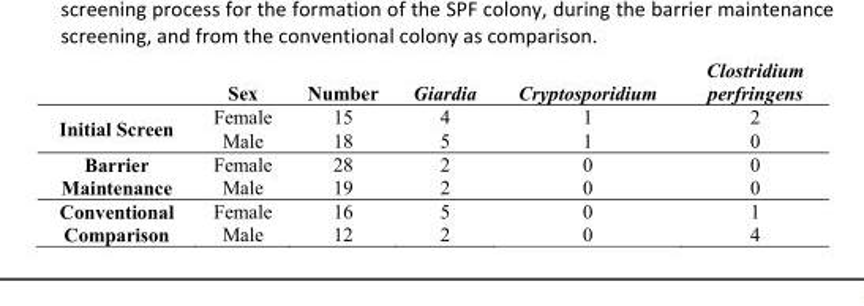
<table><thead><tr><td></td><td>Sex</td><td>Number</td><td>Giardia</td><td>Cryptosporidium</td><td>Clostridium perfringens</td></tr></thead><tbody><tr><td rowspan="2">Initial Screen</td><td>Female</td><td>15</td><td>4</td><td>1</td><td>2</td></tr><tr><td>Male</td><td>18</td><td>5</td><td>1</td><td>0</td></tr><tr><td>Barrier</td><td>Female</td><td>28</td><td>2</td><td>0</td><td>0</td></tr><tr><td>Maintenance</td><td>Male</td><td>19</td><td>2</td><td>0</td><td>0</td></tr><tr><td>Conventional</td><td>Female</td><td>16</td><td>5</td><td>0</td><td>1</td></tr><tr><td>Comparison</td><td>Male</td><td>12</td><td>2</td><td>0</td><td>4</td></tr></tbody></table>